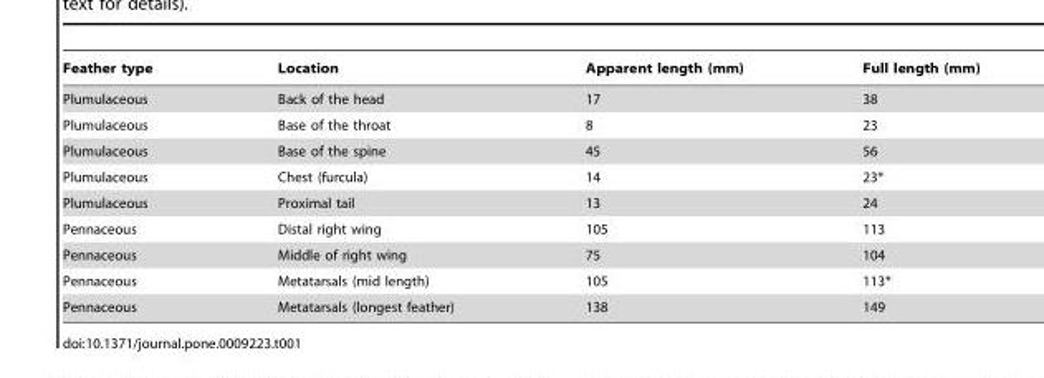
<table><thead><tr><td>Feather type</td><td>Location</td><td>Apparent length (mm)</td><td>Full length (mm)</td></tr></thead><tbody><tr><td>Plumulaceous</td><td>Back of the head</td><td>17</td><td>38</td></tr><tr><td>Plumulaceous</td><td>Base of the throat</td><td>8</td><td>23</td></tr><tr><td>Plumulaceous</td><td>Base of the spine</td><td>45</td><td>56</td></tr><tr><td>Plumulaceous</td><td>Chest (furcula)</td><td>14</td><td>23*</td></tr><tr><td>Plumulaceous</td><td>Proximal tail</td><td>13</td><td>24</td></tr><tr><td>Pennaceous</td><td>Distal right wing</td><td>105</td><td>113</td></tr><tr><td>Pennaceous</td><td>Middle of right wing</td><td>75</td><td>104</td></tr><tr><td>Pennaceous</td><td>Metatarsals (mid length)</td><td>105</td><td>113*</td></tr><tr><td>Pennaceous</td><td>Metatarsals (longest feather)</td><td>138</td><td>149</td></tr></tbody></table>